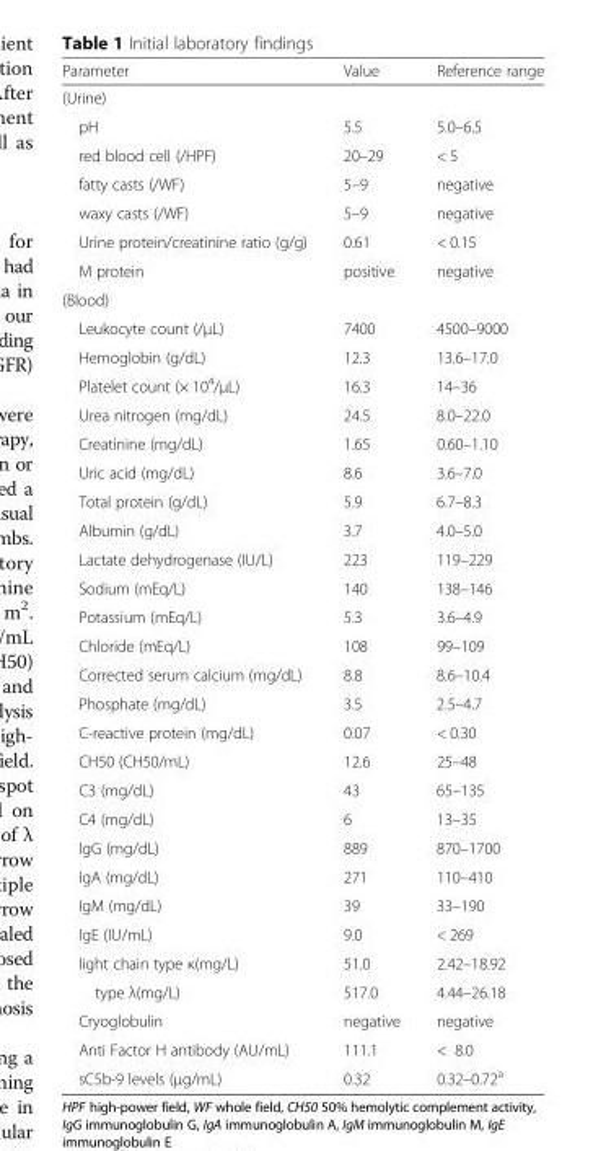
<table><thead><tr><td>Parameter</td><td>Value</td><td>Reference range</td></tr></thead><tbody><tr><td colspan="3">(Urine)</td></tr><tr><td>pH</td><td>5.5</td><td>5.0–6.5</td></tr><tr><td>red blood cell (/HPF)</td><td>20–29</td><td>&lt; 5</td></tr><tr><td>fatty casts (/WF)</td><td>5–9</td><td>negative</td></tr><tr><td>waxy casts (/WF)</td><td>5–9</td><td>negative</td></tr><tr><td>Urine protein/creatinine ratio (g/g)</td><td>0.61</td><td>&lt; 0.15</td></tr><tr><td>M protein</td><td>positive</td><td>negative</td></tr><tr><td colspan="3">(Blood)</td></tr><tr><td>Leukocyte count (/μL)</td><td>7400</td><td>4500–9000</td></tr><tr><td>Hemoglobin (g/dL)</td><td>12.3</td><td>13.6–17.0</td></tr><tr><td>Platelet count (× 10<sup>4</sup>/μL)</td><td>16.3</td><td>14–36</td></tr><tr><td>Urea nitrogen (mg/dL)</td><td>24.5</td><td>8.0–22.0</td></tr><tr><td>Creatinine (mg/dL)</td><td>1.65</td><td>0.60–1.10</td></tr><tr><td>Uric acid (mg/dL)</td><td>8.6</td><td>3.6–7.0</td></tr><tr><td>Total protein (g/dL)</td><td>5.9</td><td>6.7–8.3</td></tr><tr><td>Albumin (g/dL)</td><td>3.7</td><td>4.0–5.0</td></tr><tr><td>Lactate dehydrogenase (IU/L)</td><td>223</td><td>119–229</td></tr><tr><td>Sodium (mEq/L)</td><td>140</td><td>138–146</td></tr><tr><td>Potassium (mEq/L)</td><td>5.3</td><td>3.6–4.9</td></tr><tr><td>Chloride (mEq/L)</td><td>108</td><td>99–109</td></tr><tr><td>Corrected serum calcium (mg/dL)</td><td>8.8</td><td>8.6–10.4</td></tr><tr><td>Phosphate (mg/dL)</td><td>3.5</td><td>2.5–4.7</td></tr><tr><td>C-reactive protein (mg/dL)</td><td>0.07</td><td>&lt; 0.30</td></tr><tr><td>CH50 (CH50/mL)</td><td>12.6</td><td>25–48</td></tr><tr><td>C3 (mg/dL)</td><td>43</td><td>65–135</td></tr><tr><td>C4 (mg/dL)</td><td>6</td><td>13–35</td></tr><tr><td>IgG (mg/dL)</td><td>889</td><td>870–1700</td></tr><tr><td>IgA (mg/dL)</td><td>271</td><td>110–410</td></tr><tr><td>IgM (mg/dL)</td><td>39</td><td>33–190</td></tr><tr><td>IgE (IU/mL)</td><td>9.0</td><td>&lt; 269</td></tr><tr><td>light chain type κ(mg/L)</td><td>51.0</td><td>2.42–18.92</td></tr><tr><td>type λ(mg/L)</td><td>517.0</td><td>4.44–26.18</td></tr><tr><td>Cryoglobulin</td><td>negative</td><td>negative</td></tr><tr><td>Anti Factor H antibody (AU/mL)</td><td>111.1</td><td>&lt; 8.0</td></tr><tr><td>sC5b-9 levels (μg/mL)</td><td>0.32</td><td>0.32–0.72<sup>a</sup></td></tr></tbody></table>